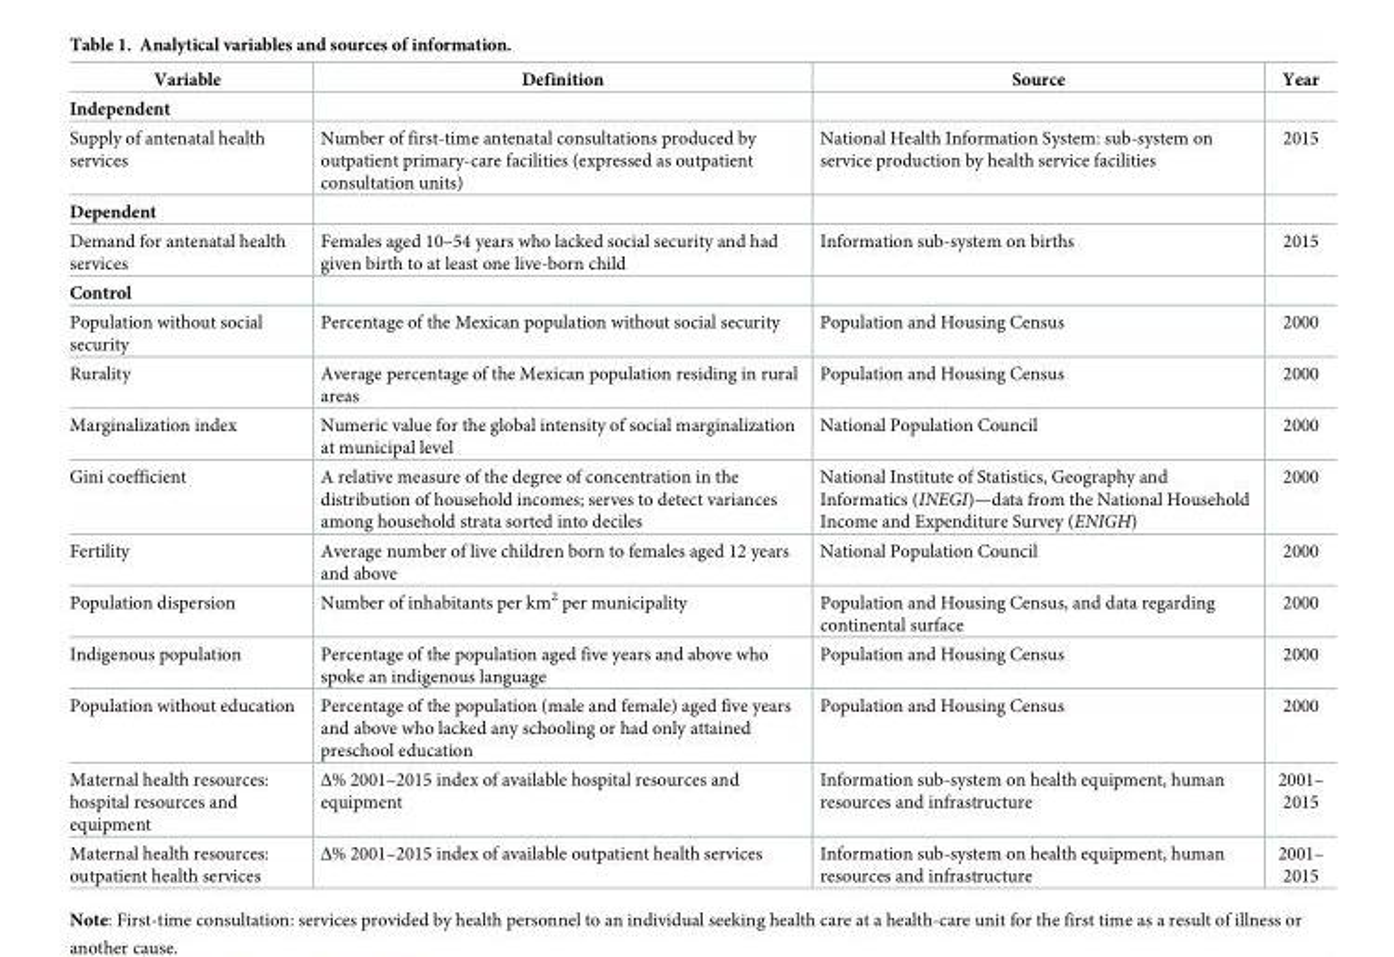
<table><thead><tr><td>Variable</td><td>Definition</td><td>Source</td><td>Year</td></tr></thead><tbody><tr><td colspan="4">Independent</td></tr><tr><td>Supply of antenatal health services</td><td>Number of first-time antenatal consultations produced by outpatient primary-care facilities (expressed as outpatient consultation units)</td><td>National Health Information System: sub-system on service production by health service facilities</td><td>2015</td></tr><tr><td colspan="4">Dependent</td></tr><tr><td>Demand for antenatal health services</td><td>Females aged 10–54 years who lacked social security and had given birth to at least one live-born child</td><td>Information sub-system on births</td><td>2015</td></tr><tr><td colspan="4">Control</td></tr><tr><td>Population without social security</td><td>Percentage of the Mexican population without social security</td><td>Population and Housing Census</td><td>2000</td></tr><tr><td>Rurality</td><td>Average percentage of the Mexican population residing in rural areas</td><td>Population and Housing Census</td><td>2000</td></tr><tr><td>Marginalization index</td><td>Numeric value for the global intensity of social marginalization at municipal level</td><td>National Population Council</td><td>2000</td></tr><tr><td>Gini coefficient</td><td>A relative measure of the degree of concentration in the distribution of household incomes; serves to detect variances among household strata sorted into deciles</td><td>National Institute of Statistics, Geography and Informatics (INEGI)—data from the National Household Income and Expenditure Survey (ENIGH)</td><td>2000</td></tr><tr><td>Fertility</td><td>Average number of live children born to females aged 12 years and above</td><td>National Population Council</td><td>2000</td></tr><tr><td>Population dispersion</td><td>Number of inhabitants per km<sup>2</sup> per municipality</td><td>Population and Housing Census, and data regarding continental surface</td><td>2000</td></tr><tr><td>Indigenous population</td><td>Percentage of the population aged five years and above who spoke an indigenous language</td><td>Population and Housing Census</td><td>2000</td></tr><tr><td>Population without education</td><td>Percentage of the population (male and female) aged five years and above who lacked any schooling or had only attained preschool education</td><td>Population and Housing Census</td><td>2000</td></tr><tr><td>Maternal health resources: hospital resources and equipment</td><td>Δ% 2001–2015 index of available hospital resources and equipment</td><td>Information sub-system on health equipment, human resources and infrastructure</td><td>2001– 2015</td></tr><tr><td>Maternal health resources: outpatient health services</td><td>Δ% 2001–2015 index of available outpatient health services</td><td>Information sub-system on health equipment, human resources and infrastructure</td><td>2001– 2015</td></tr></tbody></table>